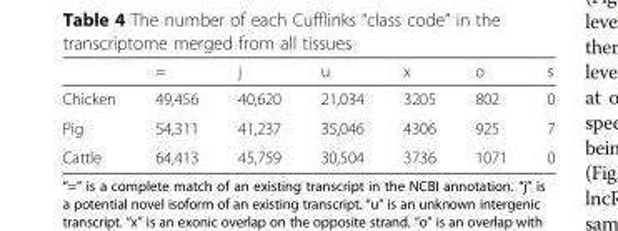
<table><thead><tr><td></td><td>=</td><td>j</td><td>u</td><td>x</td><td>o</td><td>s</td></tr></thead><tbody><tr><td>Chicken</td><td>49,456</td><td>40,620</td><td>21,034</td><td>3205</td><td>802</td><td>0</td></tr><tr><td>Pig</td><td>54,311</td><td>41,237</td><td>35,046</td><td>4306</td><td>925</td><td>7</td></tr><tr><td>Cattle</td><td>64,413</td><td>45,759</td><td>30,504</td><td>3736</td><td>1071</td><td>0</td></tr></tbody></table>